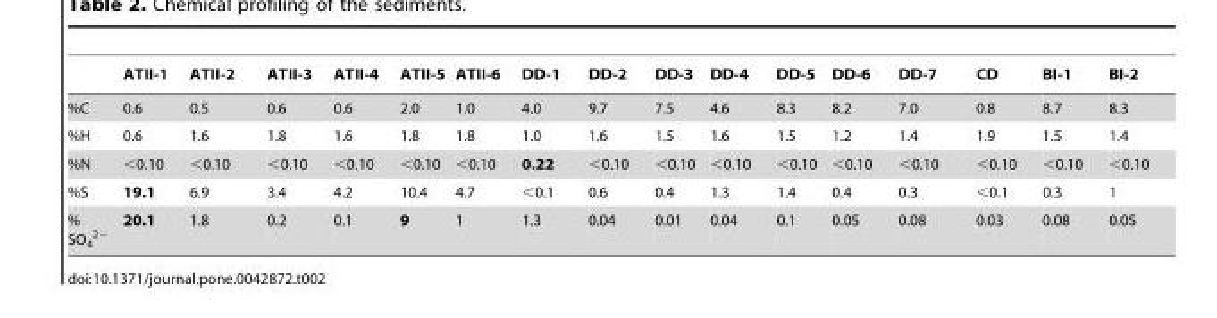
<table><thead><tr><td></td><td>ATII-1</td><td>ATII-2</td><td>ATII-3</td><td>ATII-4</td><td>ATII-5</td><td>ATII-6</td><td>DD-1</td><td>DD-2</td><td>DD-3</td><td>DD-4</td><td>DD-5</td><td>DD-6</td><td>DD-7</td><td>CD</td><td>BI-1</td><td>BI-2</td></tr></thead><tbody><tr><td>%C</td><td>0.6</td><td>0.5</td><td>0.6</td><td>0.6</td><td>2.0</td><td>1.0</td><td>4.0</td><td>9.7</td><td>7.5</td><td>4.6</td><td>8.3</td><td>8.2</td><td>7.0</td><td>0.8</td><td>8.7</td><td>8.3</td></tr><tr><td>%H</td><td>0.6</td><td>1.6</td><td>1.8</td><td>1.6</td><td>1.8</td><td>1.8</td><td>1.0</td><td>1.6</td><td>1.5</td><td>1.6</td><td>1.5</td><td>1.2</td><td>1.4</td><td>1.9</td><td>1.5</td><td>1.4</td></tr><tr><td>%N</td><td>&lt;0.10</td><td>&lt;0.10</td><td>&lt;0.10</td><td>&lt;0.10</td><td>&lt;0.10</td><td>&lt;0.10</td><td>0.22</td><td>&lt;0.10</td><td>&lt;0.10</td><td>&lt;0.10</td><td>&lt;0.10</td><td>&lt;0.10</td><td>&lt;0.10</td><td>&lt;0.10</td><td>&lt;0.10</td><td>&lt;0.10</td></tr><tr><td>%S</td><td>19.1</td><td>6.9</td><td>3.4</td><td>4.2</td><td>10.4</td><td>4.7</td><td>&lt;0.1</td><td>0.6</td><td>0.4</td><td>1.3</td><td>1.4</td><td>0.4</td><td>0.3</td><td>&lt;0.1</td><td>0.3</td><td>1</td></tr><tr><td>% SO<sub>4</sub> <sup>2−</sup></td><td>20.1</td><td>1.8</td><td>0.2</td><td>0.1</td><td>9</td><td>1</td><td>1.3</td><td>0.04</td><td>0.01</td><td>0.04</td><td>0.1</td><td>0.05</td><td>0.08</td><td>0.03</td><td>0.08</td><td>0.05</td></tr></tbody></table>